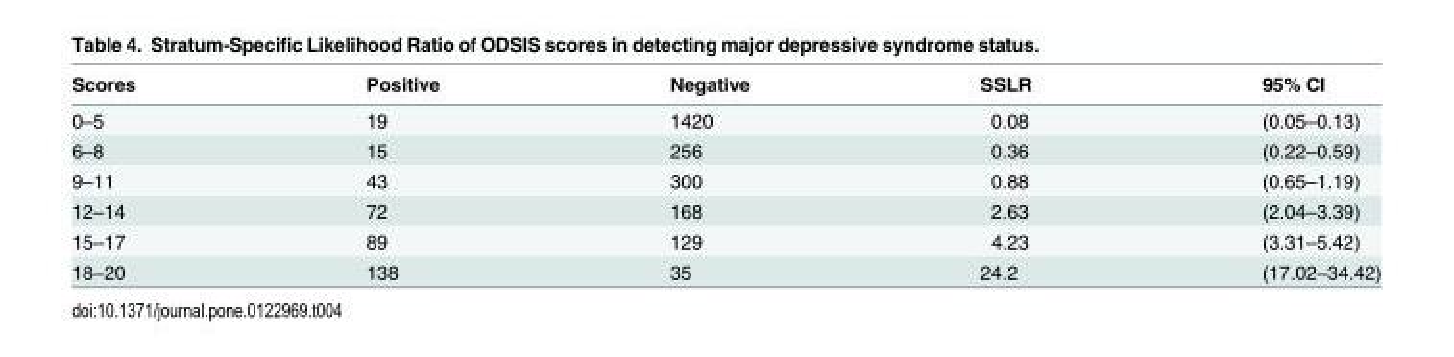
<table><thead><tr><td>Scores</td><td>Positive</td><td>Negative</td><td>SSLR</td><td>95% CI</td></tr></thead><tbody><tr><td>0–5</td><td>19</td><td>1420</td><td>0.08</td><td>(0.05–0.13)</td></tr><tr><td>6–8</td><td>15</td><td>256</td><td>0.36</td><td>(0.22–0.59)</td></tr><tr><td>9–11</td><td>43</td><td>300</td><td>0.88</td><td>(0.65–1.19)</td></tr><tr><td>12–14</td><td>72</td><td>168</td><td>2.63</td><td>(2.04–3.39)</td></tr><tr><td>15–17</td><td>89</td><td>129</td><td>4.23</td><td>(3.31–5.42)</td></tr><tr><td>18–20</td><td>138</td><td>35</td><td>24.2</td><td>(17.02–34.42)</td></tr></tbody></table>